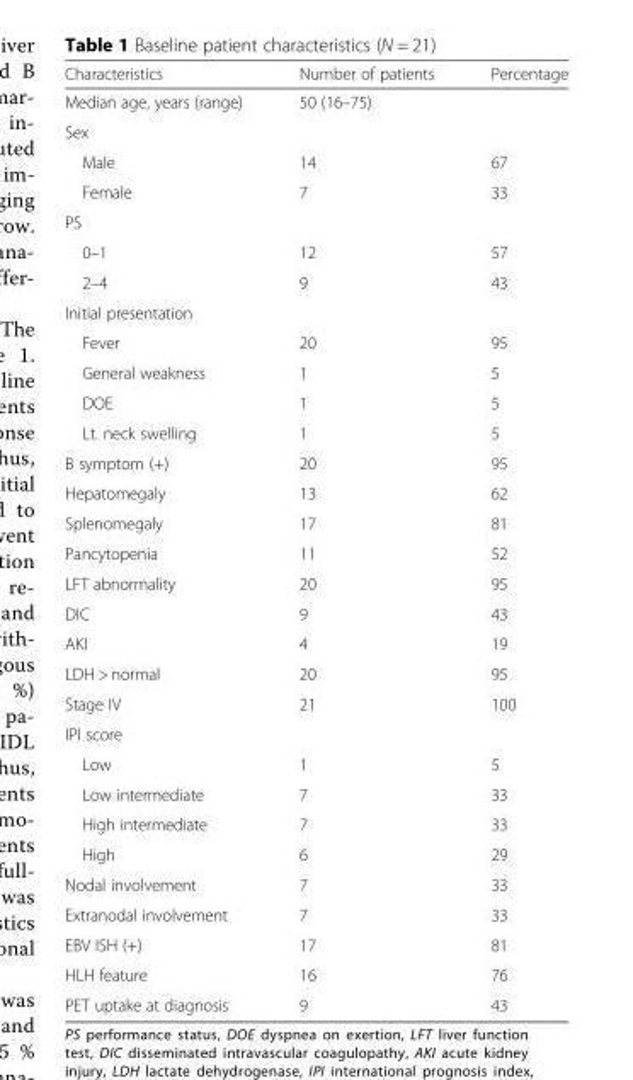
<table><thead><tr><td>Characteristics</td><td>Number of patients</td><td>Percentage</td></tr></thead><tbody><tr><td>Median age, years (range)</td><td>50 (16–75)</td><td></td></tr><tr><td colspan="3">Sex</td></tr><tr><td>Male</td><td>14</td><td>67</td></tr><tr><td>Female</td><td>7</td><td>33</td></tr><tr><td colspan="3">PS</td></tr><tr><td>0–1</td><td>12</td><td>57</td></tr><tr><td>2–4</td><td>9</td><td>43</td></tr><tr><td colspan="3">Initial presentation</td></tr><tr><td>Fever</td><td>20</td><td>95</td></tr><tr><td>General weakness</td><td>1</td><td>5</td></tr><tr><td>DOE</td><td>1</td><td>5</td></tr><tr><td>Lt. neck swelling</td><td>1</td><td>5</td></tr><tr><td>B symptom (+)</td><td>20</td><td>95</td></tr><tr><td>Hepatomegaly</td><td>13</td><td>62</td></tr><tr><td>Splenomegaly</td><td>17</td><td>81</td></tr><tr><td>Pancytopenia</td><td>11</td><td>52</td></tr><tr><td>LFT abnormality</td><td>20</td><td>95</td></tr><tr><td>DIC</td><td>9</td><td>43</td></tr><tr><td>AKI</td><td>4</td><td>19</td></tr><tr><td>LDH &gt; normal</td><td>20</td><td>95</td></tr><tr><td>Stage IV</td><td>21</td><td>100</td></tr><tr><td colspan="3">IPI score</td></tr><tr><td>Low</td><td>1</td><td>5</td></tr><tr><td>Low intermediate</td><td>7</td><td>33</td></tr><tr><td>High intermediate</td><td>7</td><td>33</td></tr><tr><td>High</td><td>6</td><td>29</td></tr><tr><td>Nodal involvement</td><td>7</td><td>33</td></tr><tr><td>Extranodal involvement</td><td>7</td><td>33</td></tr><tr><td>EBV ISH (+)</td><td>17</td><td>81</td></tr><tr><td>HLH feature</td><td>16</td><td>76</td></tr><tr><td>PET uptake at diagnosis</td><td>9</td><td>43</td></tr></tbody></table>